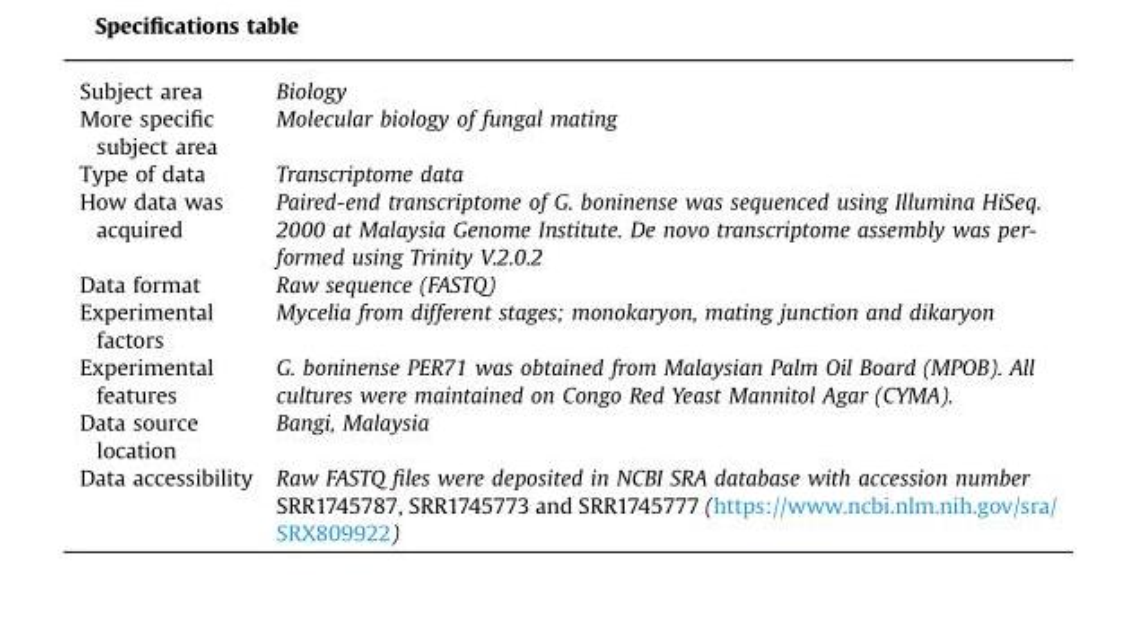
<table><tbody><tr><td>Subject area</td><td>Biology</td></tr><tr><td>More specific subject area</td><td>Molecular biology of fungal mating</td></tr><tr><td>Type of data</td><td>Transcriptome data</td></tr><tr><td>How data was acquired</td><td>Paired-end transcriptome of G. boninense was sequenced using Illumina HiSeq. 2000 at Malaysia Genome Institute. De novo transcriptome assembly was per- formed using Trinity V.2.0.2</td></tr><tr><td>Data format</td><td>Raw sequence (FASTQ)</td></tr><tr><td>Experimental factors</td><td>Mycelia from different stages; monokaryon, mating junction and dikaryon</td></tr><tr><td>Experimental features</td><td>G. boninense PER71 was obtained from Malaysian Palm Oil Board (MPOB). All cultures were maintained on Congo Red Yeast Mannitol Agar (CYMA).</td></tr><tr><td>Data source location</td><td>Bangi, Malaysia</td></tr><tr><td>Data accessibility</td><td>Raw FASTQ files were deposited in NCBI SRA database with accession number SRR1745787, SRR1745773 and SRR1745777 (https://www.ncbi.nlm.nih.gov/sra/ SRX809922)</td></tr></tbody></table>